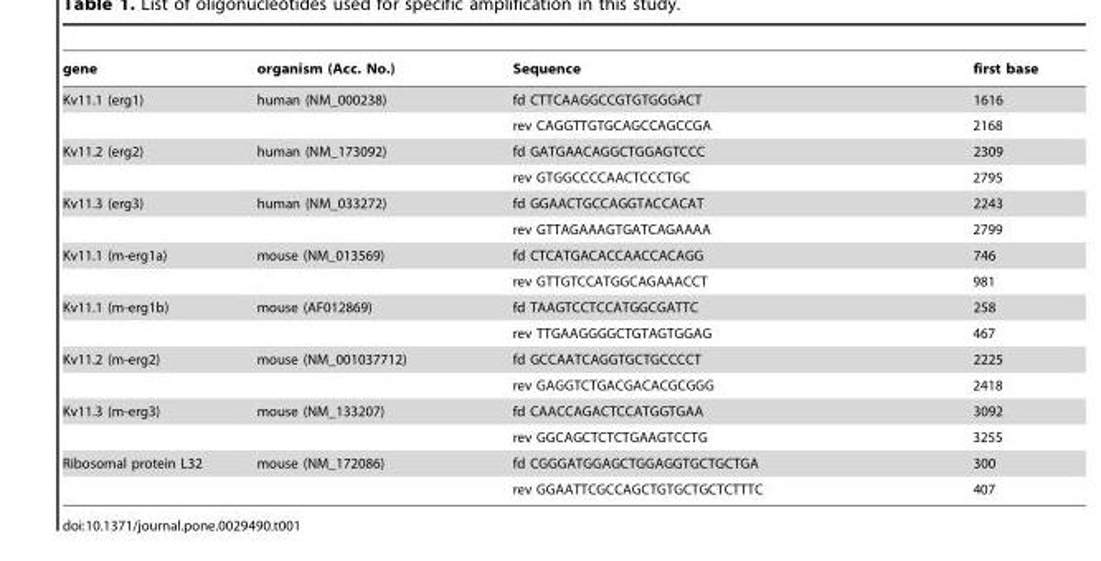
<table><thead><tr><td>gene</td><td>organism (Acc. No.)</td><td>Sequence</td><td>first base</td></tr></thead><tbody><tr><td rowspan="2">Kv11.1 (erg1)</td><td>human (NM_000238)</td><td>fd CTTCAAGGCCGTGTGGGACT</td><td>1616</td></tr><tr><td></td><td>rev CAGGTTGTGCAGCCAGCCGA</td><td>2168</td></tr><tr><td rowspan="2">Kv11.2 (erg2)</td><td>human (NM_173092)</td><td>fd GATGAACAGGCTGGAGTCCC</td><td>2309</td></tr><tr><td></td><td>rev GTGGCCCCAACTCCCTGC</td><td>2795</td></tr><tr><td rowspan="2">Kv11.3 (erg3)</td><td>human (NM_033272)</td><td>fd GGAACTGCCAGGTACCACAT</td><td>2243</td></tr><tr><td></td><td>rev GTTAGAAAGTGATCAGAAAA</td><td>2799</td></tr><tr><td rowspan="2">Kv11.1 (m-erg1a)</td><td>mouse (NM_013569)</td><td>fd CTCATGACACCAACCACAGG</td><td>746</td></tr><tr><td></td><td>rev GTTGTCCATGGCAGAAACCT</td><td>981</td></tr><tr><td rowspan="2">Kv11.1 (m-erg1b)</td><td>mouse (AF012869)</td><td>fd TAAGTCCTCCATGGCGATTC</td><td>258</td></tr><tr><td></td><td>rev TTGAAGGGGCTGTAGTGGAG</td><td>467</td></tr><tr><td rowspan="2">Kv11.2 (m-erg2)</td><td>mouse (NM_001037712)</td><td>fd GCCAATCAGGTGCTGCCCCT</td><td>2225</td></tr><tr><td></td><td>rev GAGGTCTGACGACACGCGGG</td><td>2418</td></tr><tr><td rowspan="2">Kv11.3 (m-erg3)</td><td>mouse (NM_133207)</td><td>fd CAACCAGACTCCATGGTGAA</td><td>3092</td></tr><tr><td></td><td>rev GGCAGCTCTCTGAAGTCCTG</td><td>3255</td></tr><tr><td rowspan="2">Ribosomal protein L32</td><td>mouse (NM_172086)</td><td>fd CGGGATGGAGCTGGAGGTGCTGCTGA</td><td>300</td></tr><tr><td></td><td>rev GGAATTCGCCAGCTGTGCTGCTCTTTC</td><td>407</td></tr></tbody></table>